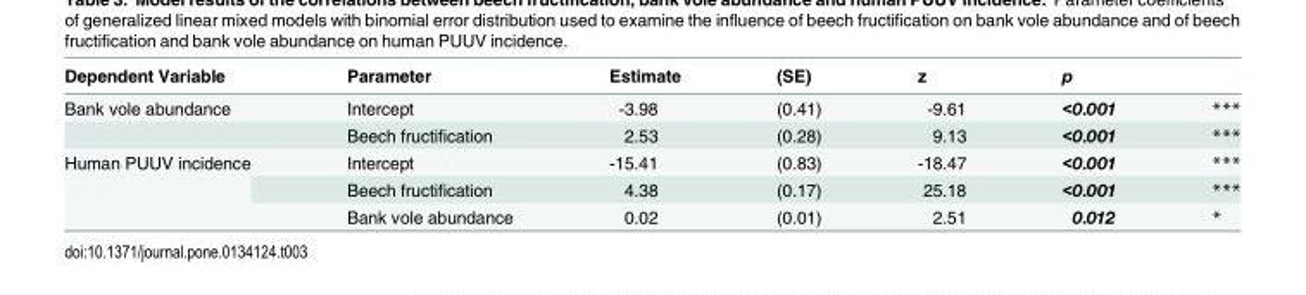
<table><thead><tr><td>Dependent Variable</td><td>Parameter</td><td>Estimate</td><td>(SE)</td><td>z</td><td>p</td><td></td></tr></thead><tbody><tr><td rowspan="2">Bank vole abundance</td><td>Intercept</td><td>-3.98</td><td>(0.41)</td><td>-9.61</td><td>&lt;0.001</td><td>***</td></tr><tr><td>Beech fructification</td><td>2.53</td><td>(0.28)</td><td>9.13</td><td>&lt;0.001</td><td>***</td></tr><tr><td rowspan="3">Human PUUV incidence</td><td>Intercept</td><td>-15.41</td><td>(0.83)</td><td>-18.47</td><td>&lt;0.001</td><td>***</td></tr><tr><td>Beech fructification</td><td>4.38</td><td>(0.17)</td><td>25.18</td><td>&lt;0.001</td><td>***</td></tr><tr><td>Bank vole abundance</td><td>0.02</td><td>(0.01)</td><td>2.51</td><td>0.012</td><td>*</td></tr></tbody></table>